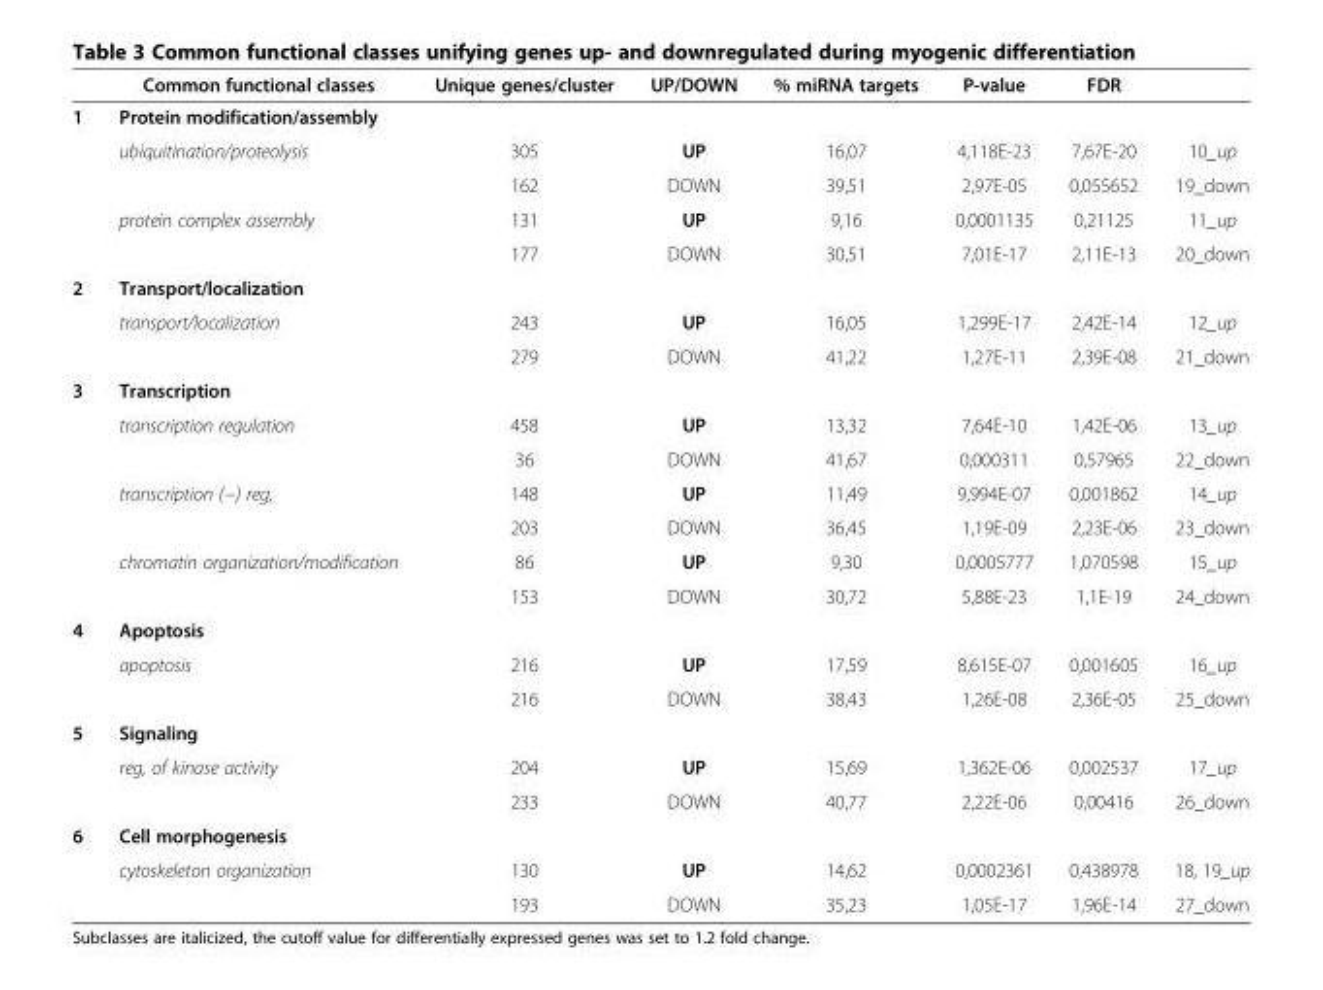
<table><thead><tr><td></td><td>Common functional classes</td><td>Unique genes/cluster</td><td>UP/DOWN</td><td>% miRNA targets</td><td>P-value</td><td>FDR</td><td></td></tr></thead><tbody><tr><td rowspan="5">1</td><td>Protein modification/assembly</td><td></td><td></td><td></td><td></td><td></td><td></td></tr><tr><td rowspan="2">ubiquitination/proteolysis</td><td>305</td><td>UP</td><td>16,07</td><td>4,118E-23</td><td>7,67E-20</td><td>10_up</td></tr><tr><td>162</td><td>DOWN</td><td>39,51</td><td>2,97E-05</td><td>0,055652</td><td>19_down</td></tr><tr><td rowspan="2">protein complex assembly</td><td>131</td><td>UP</td><td>9,16</td><td>0,0001135</td><td>0,21125</td><td>11_up</td></tr><tr><td>177</td><td>DOWN</td><td>30,51</td><td>7,01E-17</td><td>2,11E-13</td><td>20_down</td></tr><tr><td rowspan="3">2</td><td>Transport/localization</td><td></td><td></td><td></td><td></td><td></td><td></td></tr><tr><td rowspan="2">transport/localization</td><td>243</td><td>UP</td><td>16,05</td><td>1,299E-17</td><td>2,42E-14</td><td>12_up</td></tr><tr><td>279</td><td>DOWN</td><td>41,22</td><td>1,27E-11</td><td>2,39E-08</td><td>21_down</td></tr><tr><td rowspan="7">3</td><td>Transcription</td><td></td><td></td><td></td><td></td><td></td><td></td></tr><tr><td rowspan="2">transcription regulation</td><td>458</td><td>UP</td><td>13,32</td><td>7,64E-10</td><td>1,42E-06</td><td>13_up</td></tr><tr><td>36</td><td>DOWN</td><td>41,67</td><td>0,000311</td><td>0,57965</td><td>22_down</td></tr><tr><td rowspan="2">transcription (−) reg,</td><td>148</td><td>UP</td><td>11,49</td><td>9,994E-07</td><td>0,001862</td><td>14_up</td></tr><tr><td>203</td><td>DOWN</td><td>36,45</td><td>1,19E-09</td><td>2,23E-06</td><td>23_down</td></tr><tr><td rowspan="2">chromatin organization/modification</td><td>86</td><td>UP</td><td>9,30</td><td>0,0005777</td><td>1,070598</td><td>15_up</td></tr><tr><td>153</td><td>DOWN</td><td>30,72</td><td>5,88E-23</td><td>1,1E-19</td><td>24_down</td></tr><tr><td rowspan="3">4</td><td>Apoptosis</td><td></td><td></td><td></td><td></td><td></td><td></td></tr><tr><td rowspan="2">apoptosis</td><td>216</td><td>UP</td><td>17,59</td><td>8,615E-07</td><td>0,001605</td><td>16_up</td></tr><tr><td>216</td><td>DOWN</td><td>38,43</td><td>1,26E-08</td><td>2,36E-05</td><td>25_down</td></tr><tr><td rowspan="3">5</td><td>Signaling</td><td></td><td></td><td></td><td></td><td></td><td></td></tr><tr><td rowspan="2">reg, of kinase activity</td><td>204</td><td>UP</td><td>15,69</td><td>1,362E-06</td><td>0,002537</td><td>17_up</td></tr><tr><td>233</td><td>DOWN</td><td>40,77</td><td>2,22E-06</td><td>0,00416</td><td>26_down</td></tr><tr><td rowspan="3">6</td><td>Cell morphogenesis</td><td></td><td></td><td></td><td></td><td></td><td></td></tr><tr><td>cytoskeleton organization</td><td>130</td><td>UP</td><td>14,62</td><td>0,0002361</td><td>0,438978</td><td>18, 19_up</td></tr><tr><td></td><td>193</td><td>DOWN</td><td>35,23</td><td>1,05E-17</td><td>1,96E-14</td><td>27_down</td></tr></tbody></table>